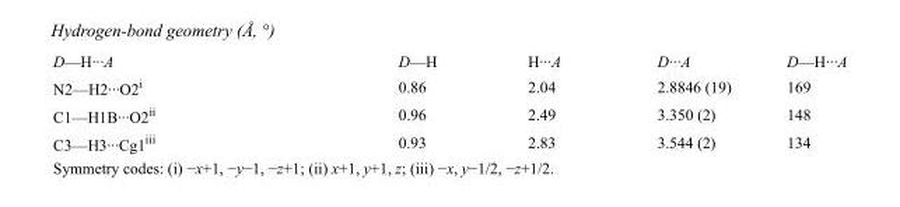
<table><tbody><tr><td>D—H···A</td><td>D—H</td><td>H···A</td><td>D···A</td><td>D—H···A</td></tr><tr><td>N2—H2···O2<sup>i</sup></td><td>0.86</td><td>2.04</td><td>2.8846 (19)</td><td>169</td></tr><tr><td>C1—H1B···O2<sup>ii</sup></td><td>0.96</td><td>2.49</td><td>3.350 (2)</td><td>148</td></tr><tr><td>C3—H3···Cg1<sup>iii</sup></td><td>0.93</td><td>2.83</td><td>3.544 (2)</td><td>134</td></tr></tbody></table>